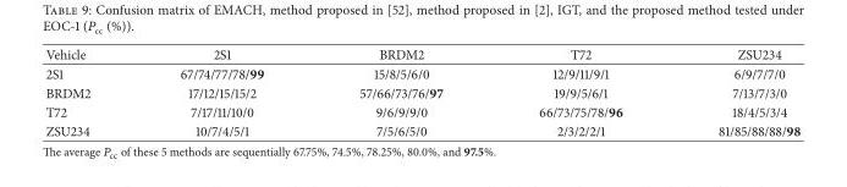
<table><thead><tr><td>Vehicle</td><td>2S1</td><td>BRDM2</td><td>T72</td><td>ZSU234</td></tr></thead><tbody><tr><td>2S1</td><td>67/74/77/78/99</td><td>15/8/5/6/0</td><td>12/9/11/9/1</td><td>6/9/7/7/0</td></tr><tr><td>BRDM2</td><td>17/12/15/15/2</td><td>57/66/73/76/97</td><td>19/9/5/6/1</td><td>7/13/7/3/0</td></tr><tr><td>T72</td><td>7/17/11/10/0</td><td>9/6/9/9/0</td><td>66/73/75/78/96</td><td>18/4/5/3/4</td></tr><tr><td>ZSU234</td><td>10/7/4/5/1</td><td>7/5/6/5/0</td><td>2/3/2/2/1</td><td>81/85/88/88/98</td></tr></tbody></table>